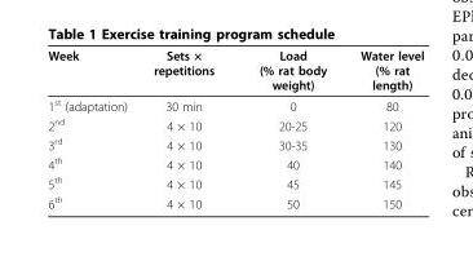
<table><thead><tr><td>Week</td><td>Sets × repetitions</td><td>Load (% rat body weight)</td><td>Water level (% rat length)</td></tr></thead><tbody><tr><td>1<sup>st</sup> (adaptation)</td><td>30 min</td><td>0</td><td>80</td></tr><tr><td>2<sup>nd</sup></td><td>4 × 10</td><td>20-25</td><td>120</td></tr><tr><td>3<sup>rd</sup></td><td>4 × 10</td><td>30-35</td><td>130</td></tr><tr><td>4<sup>th</sup></td><td>4 × 10</td><td>40</td><td>140</td></tr><tr><td>5<sup>th</sup></td><td>4 × 10</td><td>45</td><td>145</td></tr><tr><td>6<sup>th</sup></td><td>4 × 10</td><td>50</td><td>150</td></tr></tbody></table>